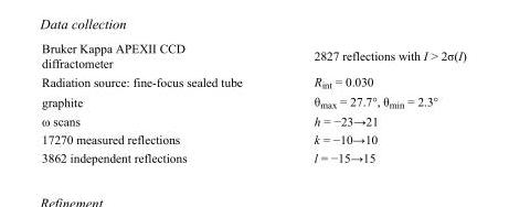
<table><tbody><tr><td>Bruker Kappa APEXII CCD diffractometer</td><td>2827 reflections with I &gt; 2σ(I)</td></tr><tr><td>Radiation source: fine-focus sealed tube</td><td>R<sub>int</sub> = 0.030</td></tr><tr><td>graphite</td><td>θ<sub>max</sub> = 27.7°, θ<sub>min</sub> = 2.3°</td></tr><tr><td>ω scans</td><td>h = −23→21</td></tr><tr><td>17270 measured reflections</td><td>k = −10→10</td></tr><tr><td>3862 independent reflections</td><td>l = −15→15</td></tr></tbody></table>